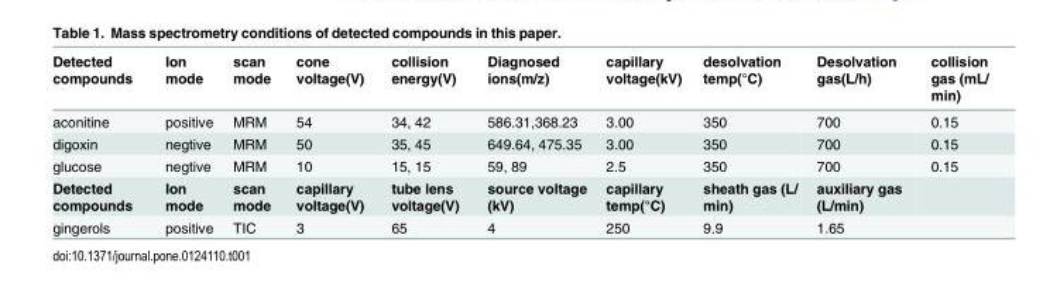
<table><thead><tr><td>Detected compounds</td><td>Ion mode</td><td>scan mode</td><td>cone voltage(V)</td><td>collision energy(V)</td><td>Diagnosed ions(m/z)</td><td>capillary voltage(kV)</td><td>desolvation temp(°C)</td><td>Desolvation gas(L/h)</td><td>collision gas (mL/ min)</td></tr></thead><tbody><tr><td>aconitine</td><td>positive</td><td>MRM</td><td>54</td><td>34, 42</td><td>586.31,368.23</td><td>3.00</td><td>350</td><td>700</td><td>0.15</td></tr><tr><td>digoxin</td><td>negtive</td><td>MRM</td><td>50</td><td>35, 45</td><td>649.64, 475.35</td><td>3.00</td><td>350</td><td>700</td><td>0.15</td></tr><tr><td>glucose</td><td>negtive</td><td>MRM</td><td>10</td><td>15, 15</td><td>59, 89</td><td>2.5</td><td>350</td><td>700</td><td>0.15</td></tr><tr><td>Detected compounds</td><td>Ion mode</td><td>scan mode</td><td>capillary voltage(V)</td><td>tube lens voltage(V)</td><td>source voltage (kV)</td><td>capillary temp(°C)</td><td>sheath gas (L/ min)</td><td>auxiliary gas (L/min)</td><td></td></tr><tr><td>gingerols</td><td>positive</td><td>TIC</td><td>3</td><td>65</td><td>4</td><td>250</td><td>9.9</td><td>1.65</td><td></td></tr></tbody></table>